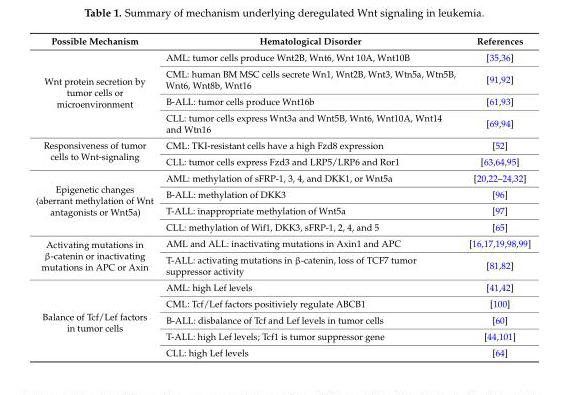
<table><thead><tr><td>Possible Mechanism</td><td>Hematological Disorder</td><td>References</td></tr></thead><tbody><tr><td rowspan="4">Wnt protein secretion by tumor cells or microenvironment</td><td>AML: tumor cells produce Wnt2B, Wnt6, Wnt 10A, Wnt10B</td><td>[35,36]</td></tr><tr><td>CML: human BM MSC cells secrete Wn1, Wnt2B, Wnt3, Wtn5a, Wtn5B, Wnt6, Wnt8b, Wnt16</td><td>[91,92]</td></tr><tr><td>B-ALL: tumor cells produce Wnt16b</td><td>[61,93]</td></tr><tr><td>CLL: tumor cells express Wnt3a and Wnt5B, Wnt6, Wnt10A, Wnt14 and Wtn16</td><td>[69,94]</td></tr><tr><td rowspan="2">Responsiveness of tumor cells to Wnt-signaling</td><td>CML: TKI-resistant cells have a high Fzd8 expression</td><td>[52]</td></tr><tr><td>CLL: tumor cells express Fzd3 and LRP5/LRP6 and Ror1</td><td>[63,64,95]</td></tr><tr><td rowspan="4">Epigenetic changes (aberrant methylation of Wnt antagonists or Wnt5a)</td><td>AML: methylation of sFRP-1, 3, 4, and DKK1, or Wnt5a</td><td>[20,22–24,32]</td></tr><tr><td>B-ALL: methylation of DKK3</td><td>[96]</td></tr><tr><td>T-ALL: inappropriate methylation of Wnt5a</td><td>[97]</td></tr><tr><td>CLL: methylation of Wif1, DKK3, sFRP-1, 2, 4, and 5</td><td>[65]</td></tr><tr><td rowspan="2">Activating mutations in β-catenin or inactivating mutations in APC or Axin</td><td>AML and ALL: inactivating mutations in Axin1 and APC</td><td>[16,17,19,98,99]</td></tr><tr><td>T-ALL: activating mutations in β-catenin, loss of TCF7 tumor suppressor activity</td><td>[81,82]</td></tr><tr><td rowspan="5">Balance of Tcf/Lef factors in tumor cells</td><td>AML: high Lef levels</td><td>[41,42]</td></tr><tr><td>CML: Tcf/Lef factors positiviely regulate ABCB1</td><td>[100]</td></tr><tr><td>B-ALL: disbalance of Tcf and Lef levels in tumor cells</td><td>[60]</td></tr><tr><td>T-ALL: high Lef levels; Tcf1 is tumor suppressor gene</td><td>[44,101]</td></tr><tr><td>CLL: high Lef levels</td><td>[64]</td></tr></tbody></table>